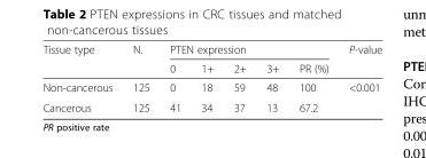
<table><thead><tr><td rowspan="2">Tissue type</td><td rowspan="2">N.</td><td colspan="5">PTEN expression</td><td rowspan="2">P-value</td></tr><tr><td>0</td><td>1+</td><td>2+</td><td>3+</td><td>PR (%)</td></tr></thead><tbody><tr><td>Non-cancerous</td><td>125</td><td>0</td><td>18</td><td>59</td><td>48</td><td>100</td><td rowspan="2">&lt;0.001</td></tr><tr><td>Cancerous</td><td>125</td><td>41</td><td>34</td><td>37</td><td>13</td><td>67.2</td></tr></tbody></table>